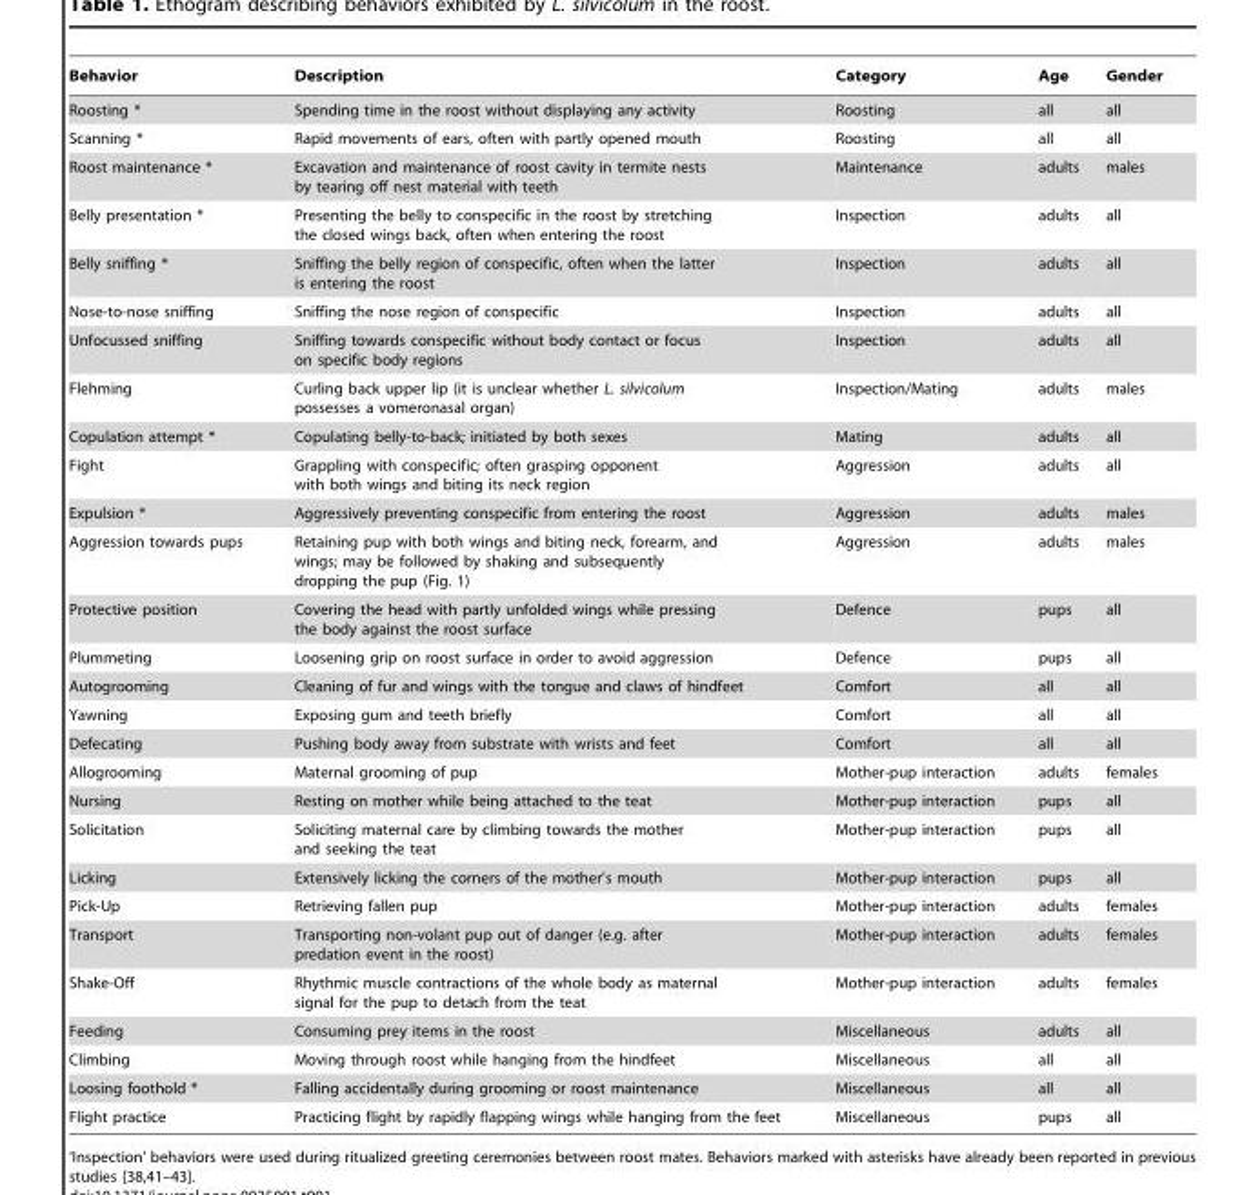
<table><thead><tr><td>Behavior</td><td>Description</td><td>Category</td><td>Age</td><td>Gender</td></tr></thead><tbody><tr><td>Roosting *</td><td>Spending time in the roost without displaying any activity</td><td>Roosting</td><td>all</td><td>all</td></tr><tr><td>Scanning *</td><td>Rapid movements of ears, often with partly opened mouth</td><td>Roosting</td><td>all</td><td>all</td></tr><tr><td>Roost maintenance *</td><td>Excavation and maintenance of roost cavity in termite nests by tearing off nest material with teeth</td><td>Maintenance</td><td>adults</td><td>males</td></tr><tr><td>Belly presentation *</td><td>Presenting the belly to conspecific in the roost by stretching the closed wings back, often when entering the roost</td><td>Inspection</td><td>adults</td><td>all</td></tr><tr><td>Belly sniffing *</td><td>Sniffing the belly region of conspecific, often when the latter is entering the roost</td><td>Inspection</td><td>adults</td><td>all</td></tr><tr><td>Nose-to-nose sniffing</td><td>Sniffing the nose region of conspecific</td><td>Inspection</td><td>adults</td><td>all</td></tr><tr><td>Unfocussed sniffing</td><td>Sniffing towards conspecific without body contact or focus on specific body regions</td><td>Inspection</td><td>adults</td><td>all</td></tr><tr><td>Flehming</td><td>Curling back upper lip (it is unclear whether L. silvicolum possesses a vomeronasal organ)</td><td>Inspection/Mating</td><td>adults</td><td>males</td></tr><tr><td>Copulation attempt *</td><td>Copulating belly-to-back; initiated by both sexes</td><td>Mating</td><td>adults</td><td>all</td></tr><tr><td>Fight</td><td>Grappling with conspecific; often grasping opponent with both wings and biting its neck region</td><td>Aggression</td><td>adults</td><td>all</td></tr><tr><td>Expulsion *</td><td>Aggressively preventing conspecific from entering the roost</td><td>Aggression</td><td>adults</td><td>males</td></tr><tr><td>Aggression towards pups</td><td>Retaining pup with both wings and biting neck, forearm, and wings; may be followed by shaking and subsequently dropping the pup (Fig. 1)</td><td>Aggression</td><td>adults</td><td>males</td></tr><tr><td>Protective position</td><td>Covering the head with partly unfolded wings while pressing the body against the roost surface</td><td>Defence</td><td>pups</td><td>all</td></tr><tr><td>Plummeting</td><td>Loosening grip on roost surface in order to avoid aggression</td><td>Defence</td><td>pups</td><td>all</td></tr><tr><td>Autogrooming</td><td>Cleaning of fur and wings with the tongue and claws of hindfeet</td><td>Comfort</td><td>all</td><td>all</td></tr><tr><td>Yawning</td><td>Exposing gum and teeth briefly</td><td>Comfort</td><td>all</td><td>all</td></tr><tr><td>Defecating</td><td>Pushing body away from substrate with wrists and feet</td><td>Comfort</td><td>all</td><td>all</td></tr><tr><td>Allogrooming</td><td>Maternal grooming of pup</td><td>Mother-pup interaction</td><td>adults</td><td>females</td></tr><tr><td>Nursing</td><td>Resting on mother while being attached to the teat</td><td>Mother-pup interaction</td><td>pups</td><td>all</td></tr><tr><td>Solicitation</td><td>Soliciting maternal care by climbing towards the mother and seeking the teat</td><td>Mother-pup interaction</td><td>pups</td><td>all</td></tr><tr><td>Licking</td><td>Extensively licking the corners of the mother’s mouth</td><td>Mother-pup interaction</td><td>pups</td><td>all</td></tr><tr><td>Pick-Up</td><td>Retrieving fallen pup</td><td>Mother-pup interaction</td><td>adults</td><td>females</td></tr><tr><td>Transport</td><td>Transporting non-volant pup out of danger (e.g. after predation event in the roost)</td><td>Mother-pup interaction</td><td>adults</td><td>females</td></tr><tr><td>Shake-Off</td><td>Rhythmic muscle contractions of the whole body as maternal signal for the pup to detach from the teat</td><td>Mother-pup interaction</td><td>adults</td><td>females</td></tr><tr><td>Feeding</td><td>Consuming prey items in the roost</td><td>Miscellaneous</td><td>adults</td><td>all</td></tr><tr><td>Climbing</td><td>Moving through roost while hanging from the hindfeet</td><td>Miscellaneous</td><td>all</td><td>all</td></tr><tr><td>Loosing foothold *</td><td>Falling accidentally during grooming or roost maintenance</td><td>Miscellaneous</td><td>all</td><td>all</td></tr><tr><td>Flight practice</td><td>Practicing flight by rapidly flapping wings while hanging from the feet</td><td>Miscellaneous</td><td>pups</td><td>all</td></tr></tbody></table>